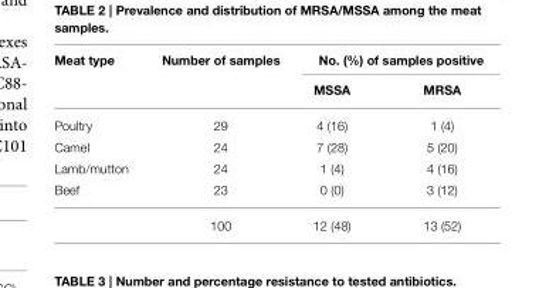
<table><thead><tr><td rowspan="2">Meat type</td><td rowspan="2">Number of samples</td><td colspan="2">No. (%) of samples positive</td></tr><tr><td>MSSA</td><td>MRSA</td></tr></thead><tbody><tr><td>Poultry</td><td>29</td><td>4 (16)</td><td>1 (4)</td></tr><tr><td>Camel</td><td>24</td><td>7 (28)</td><td>5 (20)</td></tr><tr><td>Lamb/mutton</td><td>24</td><td>1 (4)</td><td>4 (16)</td></tr><tr><td rowspan="2">Beef</td><td>23</td><td>0 (0)</td><td>3 (12)</td></tr><tr><td>100</td><td>12 (48)</td><td>13 (52)</td></tr></tbody></table>